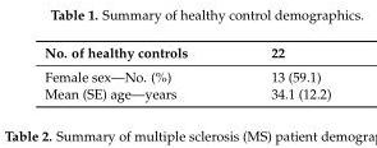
<table><thead><tr><td>No. of healthy controls</td><td>22</td></tr></thead><tbody><tr><td>Female sex—No. (%)</td><td>13 (59.1)</td></tr><tr><td>Mean (SE) age—years</td><td>34.1 (12.2)</td></tr></tbody></table>